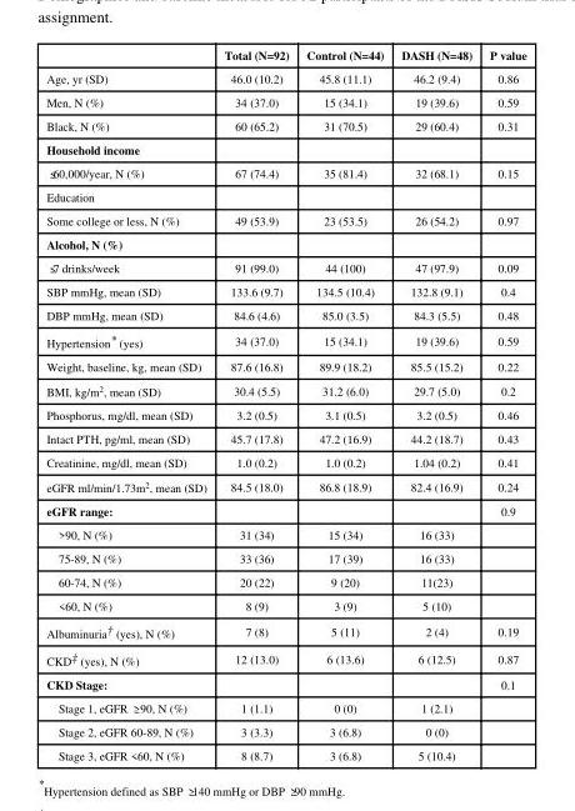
<table><thead><tr><td></td><td>Total (N=92)</td><td>Control (N=44)</td><td>DASH (N=48)</td><td>P value</td></tr></thead><tbody><tr><td>Age, yr (SD)</td><td>46.0 (10.2)</td><td>45.8 (11.1)</td><td>46.2 (9.4)</td><td>0.86</td></tr><tr><td>Men, N (%)</td><td>34 (37.0)</td><td>15 (34.1)</td><td>19 (39.6)</td><td>0.59</td></tr><tr><td>Black, N (%)</td><td>60 (65.2)</td><td>31 (70.5)</td><td>29 (60.4)</td><td>0.31</td></tr><tr><td colspan="5">Household income</td></tr><tr><td>≤60,000/year, N (%)</td><td>67 (74.4)</td><td>35 (81.4)</td><td>32 (68.1)</td><td>0.15</td></tr><tr><td colspan="5">Education</td></tr><tr><td>Some college or less, N (%)</td><td>49 (53.9)</td><td>23 (53.5)</td><td>26 (54.2)</td><td>0.97</td></tr><tr><td colspan="5">Alcohol, N (%)</td></tr><tr><td>≤7 drinks/week</td><td>91 (99.0)</td><td>44 (100)</td><td>47 (97.9)</td><td>0.09</td></tr><tr><td>SBP mmHg, mean (SD)</td><td>133.6 (9.7)</td><td>134.5 (10.4)</td><td>132.8 (9.1)</td><td>0.4</td></tr><tr><td>DBP mmHg, mean (SD)</td><td>84.6 (4.6)</td><td>85.0 (3.5)</td><td>84.3 (5.5)</td><td>0.48</td></tr><tr><td>Hypertension* (yes)</td><td>34 (37.0)</td><td>15 (34.1)</td><td>19 (39.6)</td><td>0.59</td></tr><tr><td>Weight, baseline, kg, mean (SD)</td><td>87.6 (16.8)</td><td>89.9 (18.2)</td><td>85.5 (15.2)</td><td>0.22</td></tr><tr><td>BMI, kg/m<sup>2</sup>, mean (SD)</td><td>30.4 (5.5)</td><td>31.2 (6.0)</td><td>29.7 (5.0)</td><td>0.2</td></tr><tr><td>Phosphorus, mg/dl, mean (SD)</td><td>3.2 (0.5)</td><td>3.1 (0.5)</td><td>3.2 (0.5)</td><td>0.46</td></tr><tr><td>Intact PTH, pg/ml, mean (SD)</td><td>45.7 (17.8)</td><td>47.2 (16.9)</td><td>44.2 (18.7)</td><td>0.43</td></tr><tr><td>Creatinine, mg/dl, mean (SD)</td><td>1.0 (0.2)</td><td>1.0 (0.2)</td><td>1.04 (0.2)</td><td>0.41</td></tr><tr><td>eGFR ml/min/1.73m<sup>2</sup>, mean (SD)</td><td>84.5 (18.0)</td><td>86.8 (18.9)</td><td>82.4 (16.9)</td><td>0.24</td></tr><tr><td>eGFR range:</td><td></td><td></td><td></td><td>0.9</td></tr><tr><td>&gt;90, N (%)</td><td>31 (34)</td><td>15 (34)</td><td>16 (33)</td><td></td></tr><tr><td>75-89, N (%)</td><td>33 (36)</td><td>17 (39)</td><td>16 (33)</td><td></td></tr><tr><td>60-74, N (%)</td><td>20 (22)</td><td>9 (20)</td><td>11(23)</td><td></td></tr><tr><td>&lt;60, N (%)</td><td>8 (9)</td><td>3 (9)</td><td>5 (10)</td><td></td></tr><tr><td>Albuminuria† (yes), N (%)</td><td>7 (8)</td><td>5 (11)</td><td>2 (4)</td><td>0.19</td></tr><tr><td>CKD‡ (yes), N (%)</td><td>12 (13.0)</td><td>6 (13.6)</td><td>6 (12.5)</td><td>0.87</td></tr><tr><td>CKD Stage:</td><td></td><td></td><td></td><td>0.1</td></tr><tr><td>Stage 1, eGFR ≥ 90, N (%)</td><td>1 (1.1)</td><td>0 (0)</td><td>1 (2.1)</td><td></td></tr><tr><td>Stage 2, eGFR 60-89, N (%)</td><td>3 (3.3)</td><td>3 (6.8)</td><td>0 (0)</td><td></td></tr><tr><td>Stage 3, eGFR &lt;60, N (%)</td><td>8 (8.7)</td><td>3 (6.8)</td><td>5 (10.4)</td><td></td></tr></tbody></table>